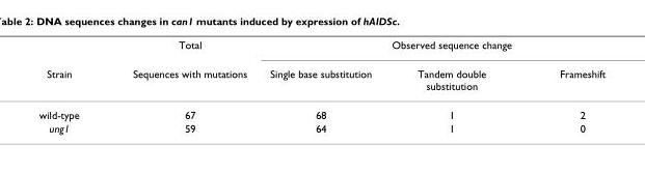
<table><thead><tr><td rowspan="2">Strain</td><td rowspan="2">Total Sequences with mutations</td><td colspan="3">Observed sequence change</td></tr><tr><td>Single base substitution</td><td>Tandem double substitution</td><td>Frameshift</td></tr></thead><tbody><tr><td>wild-type</td><td>67</td><td>68</td><td>1</td><td>2</td></tr><tr><td>ung1</td><td>59</td><td>64</td><td>1</td><td>0</td></tr></tbody></table>